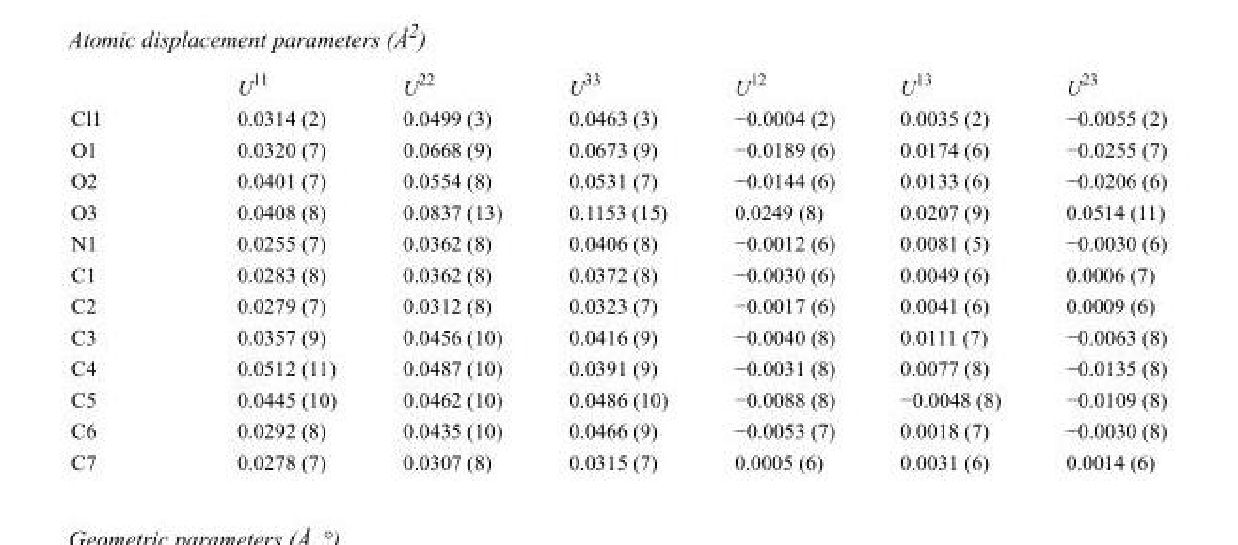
<table><thead><tr><td></td><td>U<sup>11</sup></td><td>U<sup>22</sup></td><td>U<sup>33</sup></td><td>U<sup>12</sup></td><td>U<sup>13</sup></td><td>U<sup>23</sup></td></tr></thead><tbody><tr><td>Cl1</td><td>0.0314 (2)</td><td>0.0499 (3)</td><td>0.0463 (3)</td><td>−0.0004 (2)</td><td>0.0035 (2)</td><td>−0.0055 (2)</td></tr><tr><td>O1</td><td>0.0320 (7)</td><td>0.0668 (9)</td><td>0.0673 (9)</td><td>−0.0189 (6)</td><td>0.0174 (6)</td><td>−0.0255 (7)</td></tr><tr><td>O2</td><td>0.0401 (7)</td><td>0.0554 (8)</td><td>0.0531 (7)</td><td>−0.0144 (6)</td><td>0.0133 (6)</td><td>−0.0206 (6)</td></tr><tr><td>O3</td><td>0.0408 (8)</td><td>0.0837 (13)</td><td>0.1153 (15)</td><td>0.0249 (8)</td><td>0.0207 (9)</td><td>0.0514 (11)</td></tr><tr><td>N1</td><td>0.0255 (7)</td><td>0.0362 (8)</td><td>0.0406 (8)</td><td>−0.0012 (6)</td><td>0.0081 (5)</td><td>−0.0030 (6)</td></tr><tr><td>C1</td><td>0.0283 (8)</td><td>0.0362 (8)</td><td>0.0372 (8)</td><td>−0.0030 (6)</td><td>0.0049 (6)</td><td>0.0006 (7)</td></tr><tr><td>C2</td><td>0.0279 (7)</td><td>0.0312 (8)</td><td>0.0323 (7)</td><td>−0.0017 (6)</td><td>0.0041 (6)</td><td>0.0009 (6)</td></tr><tr><td>C3</td><td>0.0357 (9)</td><td>0.0456 (10)</td><td>0.0416 (9)</td><td>−0.0040 (8)</td><td>0.0111 (7)</td><td>−0.0063 (8)</td></tr><tr><td>C4</td><td>0.0512 (11)</td><td>0.0487 (10)</td><td>0.0391 (9)</td><td>−0.0031 (8)</td><td>0.0077 (8)</td><td>−0.0135 (8)</td></tr><tr><td>C5</td><td>0.0445 (10)</td><td>0.0462 (10)</td><td>0.0486 (10)</td><td>−0.0088 (8)</td><td>−0.0048 (8)</td><td>−0.0109 (8)</td></tr><tr><td>C6</td><td>0.0292 (8)</td><td>0.0435 (10)</td><td>0.0466 (9)</td><td>−0.0053 (7)</td><td>0.0018 (7)</td><td>−0.0030 (8)</td></tr><tr><td>C7</td><td>0.0278 (7)</td><td>0.0307 (8)</td><td>0.0315 (7)</td><td>0.0005 (6)</td><td>0.0031 (6)</td><td>0.0014 (6)</td></tr></tbody></table>